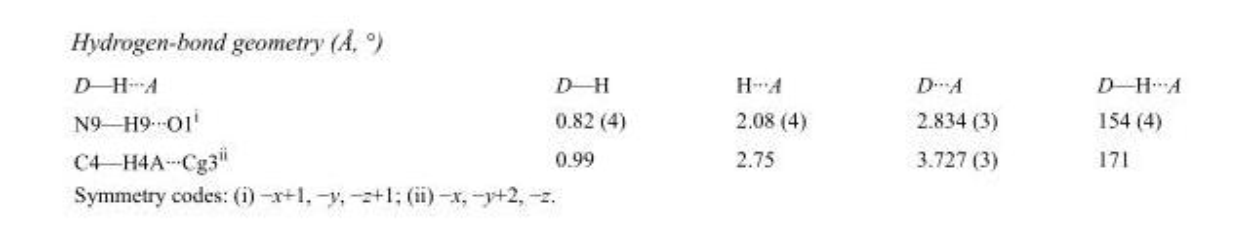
<table><tbody><tr><td>D—H···A</td><td>D—H</td><td>H···A</td><td>D···A</td><td>D—H···A</td></tr><tr><td>N9—H9···O1<sup>i</sup></td><td>0.82 (4)</td><td>2.08 (4)</td><td>2.834 (3)</td><td>154 (4)</td></tr><tr><td>C4—H4A···Cg3<sup>ii</sup></td><td>0.99</td><td>2.75</td><td>3.727 (3)</td><td>171</td></tr></tbody></table>